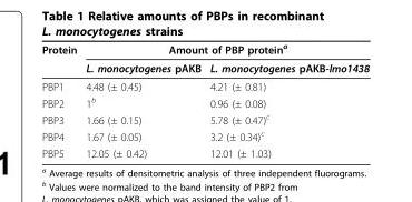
<table><tbody><tr><td rowspan="2">Protein</td><td colspan="2">Amount of PBP protein<sup>a</sup></td></tr><tr><td>L. monocytogenes pAKB</td><td>L. monocytogenes pAKB-lmo1438</td></tr><tr><td>PBP1</td><td>4.48 (± 0.45)</td><td>4.21 (± 0.81)</td></tr><tr><td>PBP2</td><td>1<sup>b</sup></td><td>0.96 (± 0.08)</td></tr><tr><td>PBP3</td><td>1.66 (± 0.15)</td><td>5.78 (± 0.47)<sup>c</sup></td></tr><tr><td>PBP4</td><td>1.67 (± 0.05)</td><td>3.2 (± 0.34)<sup>c</sup></td></tr><tr><td>PBP5</td><td>12.05 (± 0.42)</td><td>12.01 (± 1.03)</td></tr></tbody></table>